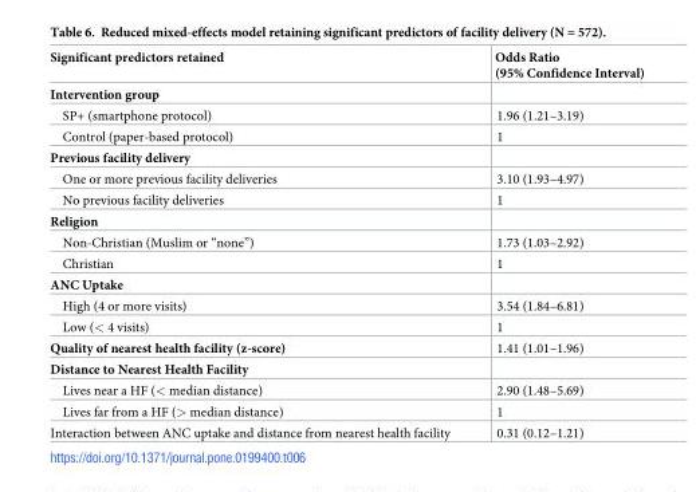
<table><thead><tr><td>Significant predictors retained</td><td>Odds Ratio (95% Confidence Interval)</td></tr></thead><tbody><tr><td colspan="2">Intervention group</td></tr><tr><td>SP+ (smartphone protocol)</td><td>1.96 (1.21–3.19)</td></tr><tr><td>Control (paper-based protocol)</td><td>1</td></tr><tr><td colspan="2">Previous facility delivery</td></tr><tr><td>One or more previous facility deliveries</td><td>3.10 (1.93–4.97)</td></tr><tr><td>No previous facility deliveries</td><td>1</td></tr><tr><td colspan="2">Religion</td></tr><tr><td>Non-Christian (Muslim or “none”)</td><td>1.73 (1.03–2.92)</td></tr><tr><td>Christian</td><td>1</td></tr><tr><td colspan="2">ANC Uptake</td></tr><tr><td>High (4 or more visits)</td><td>3.54 (1.84–6.81)</td></tr><tr><td>Low (&lt; 4 visits)</td><td>1</td></tr><tr><td>Quality of nearest health facility (z-score)</td><td>1.41 (1.01–1.96)</td></tr><tr><td colspan="2">Distance to Nearest Health Facility</td></tr><tr><td>Lives near a HF (&lt; median distance)</td><td>2.90 (1.48–5.69)</td></tr><tr><td>Lives far from a HF (&gt; median distance)</td><td>1</td></tr><tr><td>Interaction between ANC uptake and distance from nearest health facility</td><td>0.31 (0.12–1.21)</td></tr></tbody></table>